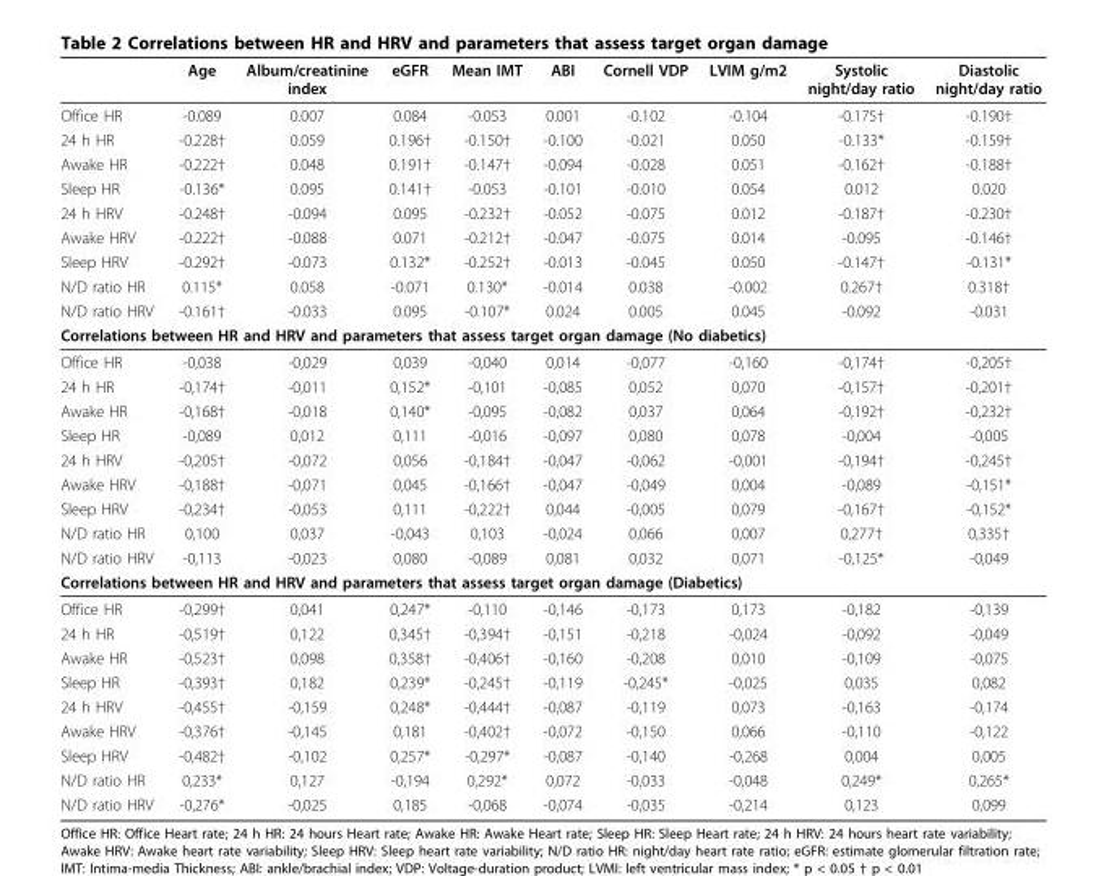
<table><thead><tr><td></td><td>Age</td><td>Album/creatinine index</td><td>eGFR</td><td>Mean IMT</td><td>ABI</td><td>Cornell VDP</td><td>LVIM g/m2</td><td>Systolic night/day ratio</td><td>Diastolic night/day ratio</td></tr></thead><tbody><tr><td>Office HR</td><td>-0.089</td><td>0.007</td><td>0.084</td><td>-0.053</td><td>0.001</td><td>-0.102</td><td>-0.104</td><td>-0.175†</td><td>-0.190†</td></tr><tr><td>24 h HR</td><td>-0.228†</td><td>0.059</td><td>0.196†</td><td>-0.150†</td><td>-0.100</td><td>-0.021</td><td>0.050</td><td>-0.133*</td><td>-0.159†</td></tr><tr><td>Awake HR</td><td>-0.222†</td><td>0.048</td><td>0.191†</td><td>-0.147†</td><td>-0.094</td><td>-0.028</td><td>0.051</td><td>-0.162†</td><td>-0.188†</td></tr><tr><td>Sleep HR</td><td>-0.136*</td><td>0.095</td><td>0.141†</td><td>-0.053</td><td>-0.101</td><td>-0.010</td><td>0.054</td><td>0.012</td><td>0.020</td></tr><tr><td>24 h HRV</td><td>-0.248†</td><td>-0.094</td><td>0.095</td><td>-0.232†</td><td>-0.052</td><td>-0.075</td><td>0.012</td><td>-0.187†</td><td>-0.230†</td></tr><tr><td>Awake HRV</td><td>-0.222†</td><td>-0.088</td><td>0.071</td><td>-0.212†</td><td>-0.047</td><td>-0.075</td><td>0.014</td><td>-0.095</td><td>-0.146†</td></tr><tr><td>Sleep HRV</td><td>-0.292†</td><td>-0.073</td><td>0.132*</td><td>-0.252†</td><td>-0.013</td><td>-0.045</td><td>0.050</td><td>-0.147†</td><td>-0.131*</td></tr><tr><td>N/D ratio HR</td><td>0.115*</td><td>0.058</td><td>-0.071</td><td>0.130*</td><td>-0.014</td><td>0.038</td><td>-0.002</td><td>0.267†</td><td>0.318†</td></tr><tr><td>N/D ratio HRV</td><td>-0.161†</td><td>-0.033</td><td>0.095</td><td>-0.107*</td><td>0.024</td><td>0.005</td><td>0.045</td><td>-0.092</td><td>-0.031</td></tr><tr><td colspan="10">Correlations between HR and HRV and parameters that assess target organ damage (No diabetics)</td></tr><tr><td>Office HR</td><td>-0,038</td><td>-0,029</td><td>0,039</td><td>-0,040</td><td>0,014</td><td>-0,077</td><td>-0,160</td><td>-0,174†</td><td>-0,205†</td></tr><tr><td>24 h HR</td><td>-0,174†</td><td>-0,011</td><td>0,152*</td><td>-0,101</td><td>-0,085</td><td>0,052</td><td>0,070</td><td>-0,157†</td><td>-0,201†</td></tr><tr><td>Awake HR</td><td>-0,168†</td><td>-0,018</td><td>0,140*</td><td>-0,095</td><td>-0,082</td><td>0,037</td><td>0,064</td><td>-0,192†</td><td>-0,232†</td></tr><tr><td>Sleep HR</td><td>-0,089</td><td>0,012</td><td>0,111</td><td>-0,016</td><td>-0,097</td><td>0,080</td><td>0,078</td><td>-0,004</td><td>-0,005</td></tr><tr><td>24 h HRV</td><td>-0,205†</td><td>-0,072</td><td>0,056</td><td>-0,184†</td><td>-0,047</td><td>-0,062</td><td>-0,001</td><td>-0,194†</td><td>-0,245†</td></tr><tr><td>Awake HRV</td><td>-0,188†</td><td>-0,071</td><td>0,045</td><td>-0,166†</td><td>-0,047</td><td>-0,049</td><td>0,004</td><td>-0,089</td><td>-0,151*</td></tr><tr><td>Sleep HRV</td><td>-0,234†</td><td>-0,053</td><td>0,111</td><td>-0,222†</td><td>0,044</td><td>-0,005</td><td>0,079</td><td>-0,167†</td><td>-0,152*</td></tr><tr><td>N/D ratio HR</td><td>0,100</td><td>0,037</td><td>-0,043</td><td>0,103</td><td>-0,024</td><td>0,066</td><td>0,007</td><td>0,277†</td><td>0,335†</td></tr><tr><td>N/D ratio HRV</td><td>-0,113</td><td>-0,023</td><td>0,080</td><td>-0,089</td><td>0,081</td><td>0,032</td><td>0,071</td><td>-0,125*</td><td>-0,049</td></tr><tr><td colspan="10">Correlations between HR and HRV and parameters that assess target organ damage (Diabetics)</td></tr><tr><td>Office HR</td><td>-0,299†</td><td>0,041</td><td>0,247*</td><td>-0,110</td><td>-0,146</td><td>-0,173</td><td>0,173</td><td>-0,182</td><td>-0,139</td></tr><tr><td>24 h HR</td><td>-0,519†</td><td>0,122</td><td>0,345†</td><td>-0,394†</td><td>-0,151</td><td>-0,218</td><td>-0,024</td><td>-0,092</td><td>-0,049</td></tr><tr><td>Awake HR</td><td>-0,523†</td><td>0,098</td><td>0,358†</td><td>-0,406†</td><td>-0,160</td><td>-0,208</td><td>0,010</td><td>-0,109</td><td>-0,075</td></tr><tr><td>Sleep HR</td><td>-0,393†</td><td>0,182</td><td>0,239*</td><td>-0,245†</td><td>-0,119</td><td>-0,245*</td><td>-0,025</td><td>0,035</td><td>0,082</td></tr><tr><td>24 h HRV</td><td>-0,455†</td><td>-0,159</td><td>0,248*</td><td>-0,444†</td><td>-0,087</td><td>-0,119</td><td>0,073</td><td>-0,163</td><td>-0,174</td></tr><tr><td>Awake HRV</td><td>-0,376†</td><td>-0,145</td><td>0,181</td><td>-0,402†</td><td>-0,072</td><td>-0,150</td><td>0,066</td><td>-0,110</td><td>-0,122</td></tr><tr><td>Sleep HRV</td><td>-0,482†</td><td>-0,102</td><td>0,257*</td><td>-0,297*</td><td>-0,087</td><td>-0,140</td><td>-0,268</td><td>0,004</td><td>0,005</td></tr><tr><td>N/D ratio HR</td><td>0,233*</td><td>0,127</td><td>-0,194</td><td>0,292*</td><td>0,072</td><td>-0,033</td><td>-0,048</td><td>0,249*</td><td>0,265*</td></tr><tr><td>N/D ratio HRV</td><td>-0,276*</td><td>-0,025</td><td>0,185</td><td>-0,068</td><td>-0,074</td><td>-0,035</td><td>-0,214</td><td>0,123</td><td>0,099</td></tr></tbody></table>